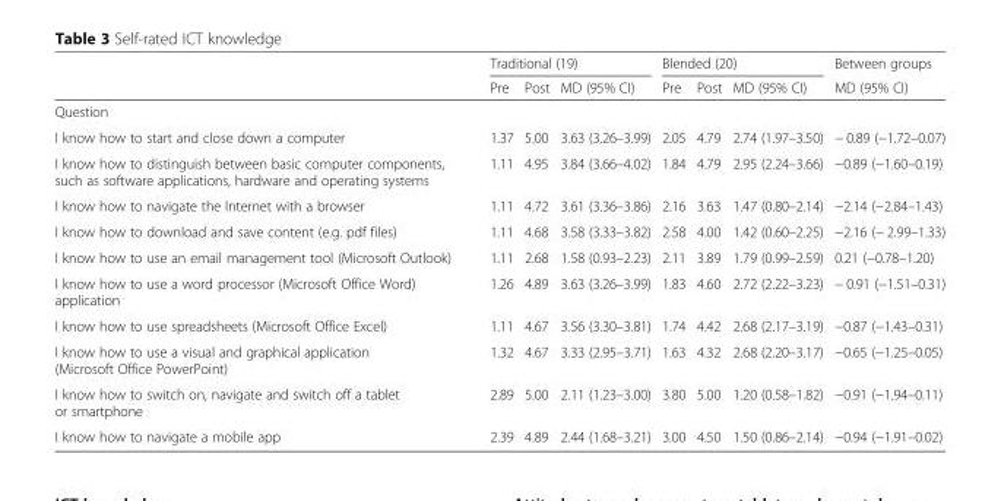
<table><thead><tr><td rowspan="2"></td><td colspan="3">Traditional (19)</td><td colspan="3">Blended (20)</td><td rowspan="2">Between groups MD (95% CI)</td></tr><tr><td>Pre</td><td>Post</td><td>MD (95% CI)</td><td>Pre</td><td>Post</td><td>MD (95% CI)</td></tr></thead><tbody><tr><td colspan="8">Question</td></tr><tr><td>I know how to start and close down a computer</td><td>1.37</td><td>5.00</td><td>3.63 (3.26–3.99)</td><td>2.05</td><td>4.79</td><td>2.74 (1.97–3.50)</td><td>− 0.89 (−1.72–0.07)</td></tr><tr><td>I know how to distinguish between basic computer components, such as software applications, hardware and operating systems</td><td>1.11</td><td>4.95</td><td>3.84 (3.66–4.02)</td><td>1.84</td><td>4.79</td><td>2.95 (2.24–3.66)</td><td>−0.89 (−1.60–0.19)</td></tr><tr><td>I know how to navigate the Internet with a browser</td><td>1.11</td><td>4.72</td><td>3.61 (3.36–3.86)</td><td>2.16</td><td>3.63</td><td>1.47 (0.80–2.14)</td><td>−2.14 (−2.84–1.43)</td></tr><tr><td>I know how to download and save content (e.g. pdf files)</td><td>1.11</td><td>4.68</td><td>3.58 (3.33–3.82)</td><td>2.58</td><td>4.00</td><td>1.42 (0.60–2.25)</td><td>−2.16 (− 2.99–1.33)</td></tr><tr><td>I know how to use an email management tool (Microsoft Outlook)</td><td>1.11</td><td>2.68</td><td>1.58 (0.93–2.23)</td><td>2.11</td><td>3.89</td><td>1.79 (0.99–2.59)</td><td>0.21 (−0.78–1.20)</td></tr><tr><td>I know how to use a word processor (Microsoft Office Word) application</td><td>1.26</td><td>4.89</td><td>3.63 (3.26–3.99)</td><td>1.83</td><td>4.60</td><td>2.72 (2.22–3.23)</td><td>− 0.91 (−1.51–0.31)</td></tr><tr><td>I know how to use spreadsheets (Microsoft Office Excel)</td><td>1.11</td><td>4.67</td><td>3.56 (3.30–3.81)</td><td>1.74</td><td>4.42</td><td>2.68 (2.17–3.19)</td><td>−0.87 (−1.43–0.31)</td></tr><tr><td>I know how to use a visual and graphical application (Microsoft Office PowerPoint)</td><td>1.32</td><td>4.67</td><td>3.33 (2.95–3.71)</td><td>1.63</td><td>4.32</td><td>2.68 (2.20–3.17)</td><td>−0.65 (−1.25–0.05)</td></tr><tr><td>I know how to switch on, navigate and switch off a tablet or smartphone</td><td>2.89</td><td>5.00</td><td>2.11 (1.23–3.00)</td><td>3.80</td><td>5.00</td><td>1.20 (0.58–1.82)</td><td>−0.91 (−1.94–0.11)</td></tr><tr><td>I know how to navigate a mobile app</td><td>2.39</td><td>4.89</td><td>2.44 (1.68–3.21)</td><td>3.00</td><td>4.50</td><td>1.50 (0.86–2.14)</td><td>−0.94 (−1.91–0.02)</td></tr></tbody></table>